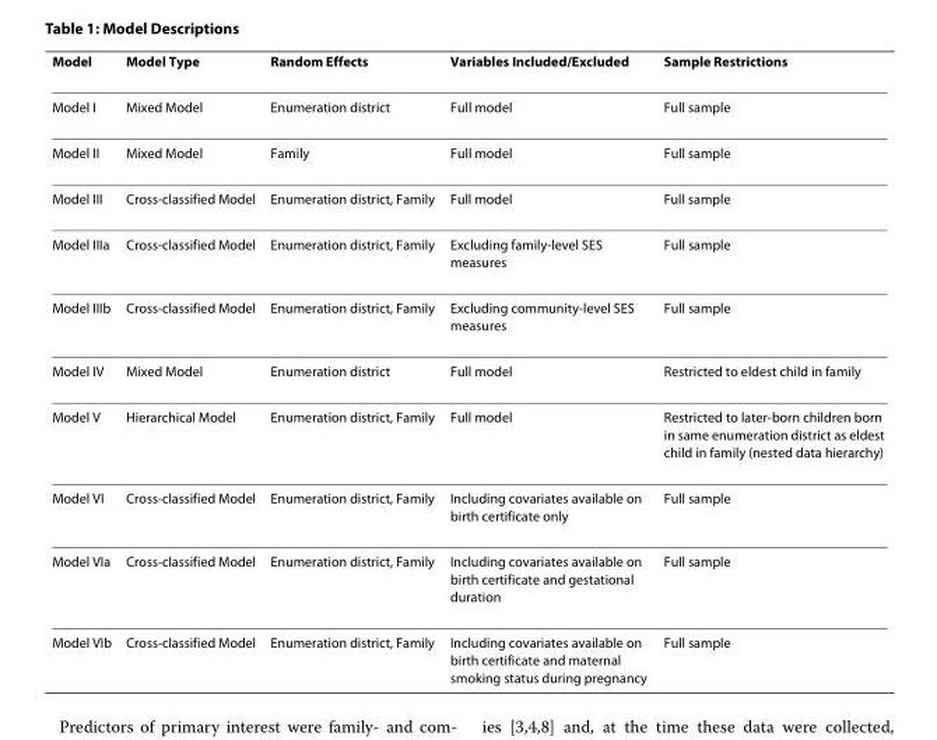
<table><thead><tr><td>Model</td><td>Model Type</td><td>Random Effects</td><td>Variables Included/Excluded</td><td>Sample Restrictions</td></tr></thead><tbody><tr><td>Model I</td><td>Mixed Model</td><td>Enumeration district</td><td>Full model</td><td>Full sample</td></tr><tr><td>Model II</td><td>Mixed Model</td><td>Family</td><td>Full model</td><td>Full sample</td></tr><tr><td>Model III</td><td>Cross-classified Model</td><td>Enumeration district, Family</td><td>Full model</td><td>Full sample</td></tr><tr><td>Model IIIa</td><td>Cross-classified Model</td><td>Enumeration district, Family</td><td>Excluding family-level SES measures</td><td>Full sample</td></tr><tr><td>Model IIIb</td><td>Cross-classified Model</td><td>Enumeration district, Family</td><td>Excluding community-level SES measures</td><td>Full sample</td></tr><tr><td>Model IV</td><td>Mixed Model</td><td>Enumeration district</td><td>Full model</td><td>Restricted to eldest child in family</td></tr><tr><td>Model V</td><td>Hierarchical Model</td><td>Enumeration district, Family</td><td>Full model</td><td>Restricted to later-born children born in same enumeration district as eldest child in family (nested data hierarchy)</td></tr><tr><td>Model VI</td><td>Cross-classified Model</td><td>Enumeration district, Family</td><td>Including covariates available on birth certificate only</td><td>Full sample</td></tr><tr><td>Model VIa</td><td>Cross-classified Model</td><td>Enumeration district, Family</td><td>Including covariates available on birth certificate and gestational duration</td><td>Full sample</td></tr><tr><td>Model VIb</td><td>Cross-classified Model</td><td>Enumeration district, Family</td><td>Including covariates available on birth certificate and maternal smoking status during pregnancy</td><td>Full sample</td></tr></tbody></table>